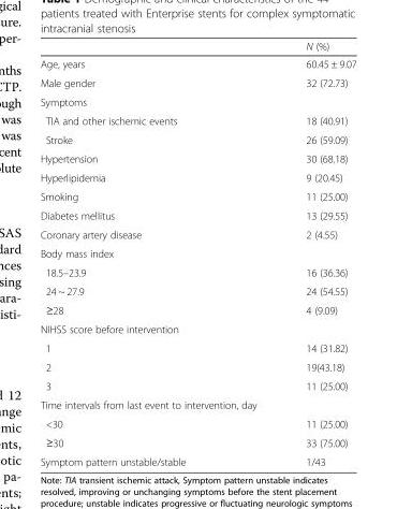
<table><thead><tr><td></td><td>N (%)</td></tr></thead><tbody><tr><td>Age, years</td><td>60.45 ± 9.07</td></tr><tr><td>Male gender</td><td>32 (72.73)</td></tr><tr><td colspan="2">Symptoms</td></tr><tr><td>TIA and other ischemic events</td><td>18 (40.91)</td></tr><tr><td>Stroke</td><td>26 (59.09)</td></tr><tr><td>Hypertension</td><td>30 (68.18)</td></tr><tr><td>Hyperlipidemia</td><td>9 (20.45)</td></tr><tr><td>Smoking</td><td>11 (25.00)</td></tr><tr><td>Diabetes mellitus</td><td>13 (29.55)</td></tr><tr><td>Coronary artery disease</td><td>2 (4.55)</td></tr><tr><td colspan="2">Body mass index</td></tr><tr><td>18.5–23.9</td><td>16 (36.36)</td></tr><tr><td>24 ~ 27.9</td><td>24 (54.55)</td></tr><tr><td>≥28</td><td>4 (9.09)</td></tr><tr><td colspan="2">NIHSS score before intervention</td></tr><tr><td>1</td><td>14 (31.82)</td></tr><tr><td>2</td><td>19(43.18)</td></tr><tr><td>3</td><td>11 (25.00)</td></tr><tr><td colspan="2">Time intervals from last event to intervention, day</td></tr><tr><td>&lt;30</td><td>11 (25.00)</td></tr><tr><td>≥30</td><td>33 (75.00)</td></tr><tr><td>Symptom pattern unstable/stable</td><td>1/43</td></tr></tbody></table>